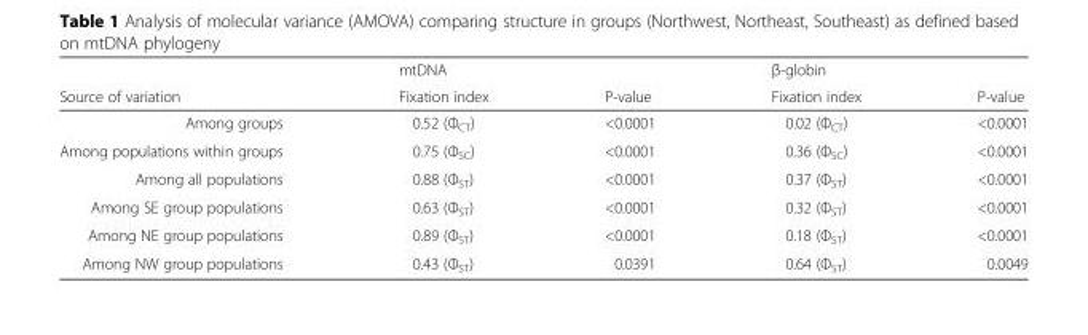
<table><thead><tr><td rowspan="2">Source of variation</td><td colspan="2">mtDNA</td><td colspan="2">β-globin</td></tr><tr><td>Fixation index</td><td>P-value</td><td>Fixation index</td><td>P-value</td></tr></thead><tbody><tr><td>Among groups</td><td>0.52 (Φ<sub>CT</sub>)</td><td>&lt;0.0001</td><td>0.02 (Φ<sub>CT</sub>)</td><td>&lt;0.0001</td></tr><tr><td>Among populations within groups</td><td>0.75 (Φ<sub>SC</sub>)</td><td>&lt;0.0001</td><td>0.36 (Φ<sub>SC</sub>)</td><td>&lt;0.0001</td></tr><tr><td>Among all populations</td><td>0.88 (Φ<sub>ST</sub>)</td><td>&lt;0.0001</td><td>0.37 (Φ<sub>ST</sub>)</td><td>&lt;0.0001</td></tr><tr><td>Among SE group populations</td><td>0.63 (Φ<sub>ST</sub>)</td><td>&lt;0.0001</td><td>0.32 (Φ<sub>ST</sub>)</td><td>&lt;0.0001</td></tr><tr><td>Among NE group populations</td><td>0.89 (Φ<sub>ST</sub>)</td><td>&lt;0.0001</td><td>0.18 (Φ<sub>ST</sub>)</td><td>&lt;0.0001</td></tr><tr><td>Among NW group populations</td><td>0.43 (Φ<sub>ST</sub>)</td><td>0.0391</td><td>0.64 (Φ<sub>ST</sub>)</td><td>0.0049</td></tr></tbody></table>